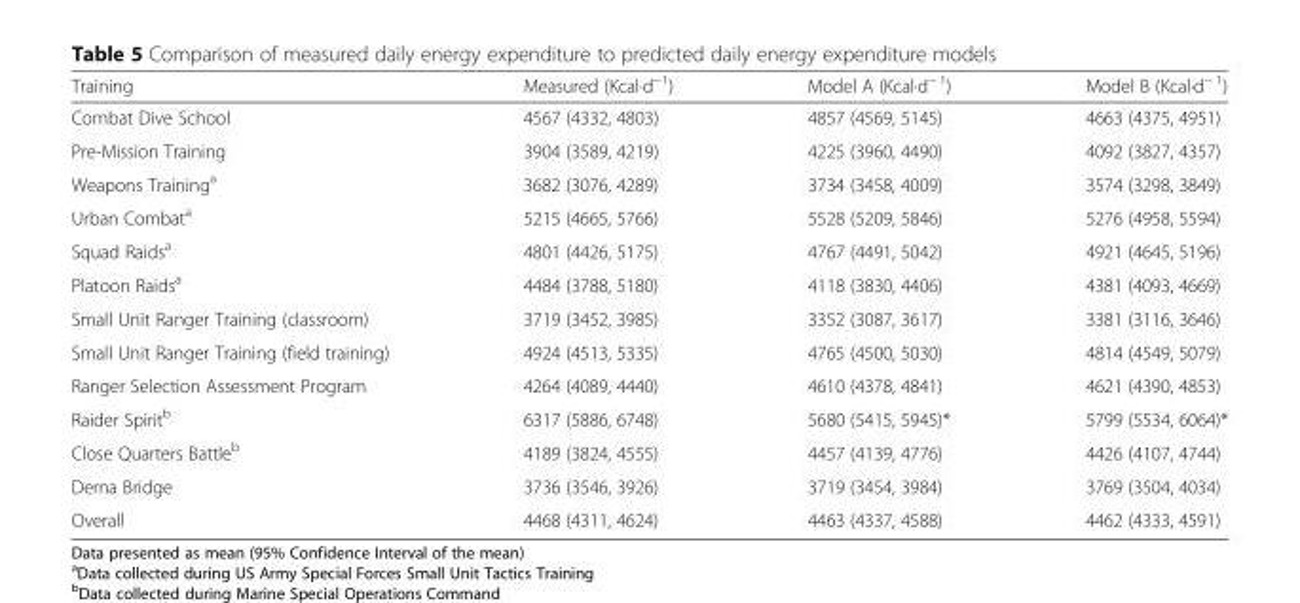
<table><thead><tr><td>Training</td><td>Measured (Kcal·d<sup>−1</sup>)</td><td>Model A (Kcal·d<sup>− 1</sup>)</td><td>Model B (Kcal·d<sup>− 1</sup>)</td></tr></thead><tbody><tr><td>Combat Dive School</td><td>4567 (4332, 4803)</td><td>4857 (4569, 5145)</td><td>4663 (4375, 4951)</td></tr><tr><td>Pre-Mission Training</td><td>3904 (3589, 4219)</td><td>4225 (3960, 4490)</td><td>4092 (3827, 4357)</td></tr><tr><td>Weapons Training<sup>a</sup></td><td>3682 (3076, 4289)</td><td>3734 (3458, 4009)</td><td>3574 (3298, 3849)</td></tr><tr><td>Urban Combat<sup>a</sup></td><td>5215 (4665, 5766)</td><td>5528 (5209, 5846)</td><td>5276 (4958, 5594)</td></tr><tr><td>Squad Raids<sup>a</sup></td><td>4801 (4426, 5175)</td><td>4767 (4491, 5042)</td><td>4921 (4645, 5196)</td></tr><tr><td>Platoon Raids<sup>a</sup></td><td>4484 (3788, 5180)</td><td>4118 (3830, 4406)</td><td>4381 (4093, 4669)</td></tr><tr><td>Small Unit Ranger Training (classroom)</td><td>3719 (3452, 3985)</td><td>3352 (3087, 3617)</td><td>3381 (3116, 3646)</td></tr><tr><td>Small Unit Ranger Training (field training)</td><td>4924 (4513, 5335)</td><td>4765 (4500, 5030)</td><td>4814 (4549, 5079)</td></tr><tr><td>Ranger Selection Assessment Program</td><td>4264 (4089, 4440)</td><td>4610 (4378, 4841)</td><td>4621 (4390, 4853)</td></tr><tr><td>Raider Spirit<sup>b</sup></td><td>6317 (5886, 6748)</td><td>5680 (5415, 5945)*</td><td>5799 (5534, 6064)*</td></tr><tr><td>Close Quarters Battle<sup>b</sup></td><td>4189 (3824, 4555)</td><td>4457 (4139, 4776)</td><td>4426 (4107, 4744)</td></tr><tr><td>Derna Bridge</td><td>3736 (3546, 3926)</td><td>3719 (3454, 3984)</td><td>3769 (3504, 4034)</td></tr><tr><td>Overall</td><td>4468 (4311, 4624)</td><td>4463 (4337, 4588)</td><td>4462 (4333, 4591)</td></tr></tbody></table>